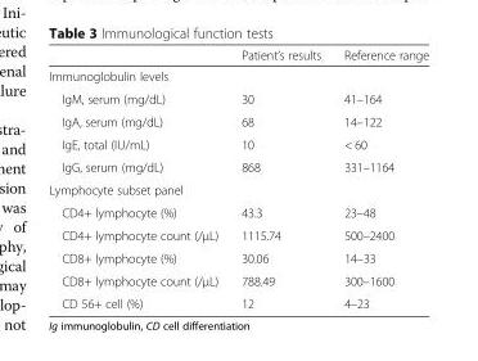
<table><thead><tr><td></td><td>Patient’s results</td><td>Reference range</td></tr></thead><tbody><tr><td colspan="3">Immunoglobulin levels</td></tr><tr><td>IgM, serum (mg/dL)</td><td>30</td><td>41–164</td></tr><tr><td>IgA, serum (mg/dL)</td><td>68</td><td>14–122</td></tr><tr><td>IgE, total (IU/mL)</td><td>10</td><td>&lt; 60</td></tr><tr><td>IgG, serum (mg/dL)</td><td>868</td><td>331–1164</td></tr><tr><td colspan="3">Lymphocyte subset panel</td></tr><tr><td>CD4+ lymphocyte (%)</td><td>43.3</td><td>23–48</td></tr><tr><td>CD4+ lymphocyte count (/μL)</td><td>1115.74</td><td>500–2400</td></tr><tr><td>CD8+ lymphocyte (%)</td><td>30.06</td><td>14–33</td></tr><tr><td>CD8+ lymphocyte count (/μL)</td><td>788.49</td><td>300–1600</td></tr><tr><td>CD 56+ cell (%)</td><td>12</td><td>4–23</td></tr></tbody></table>